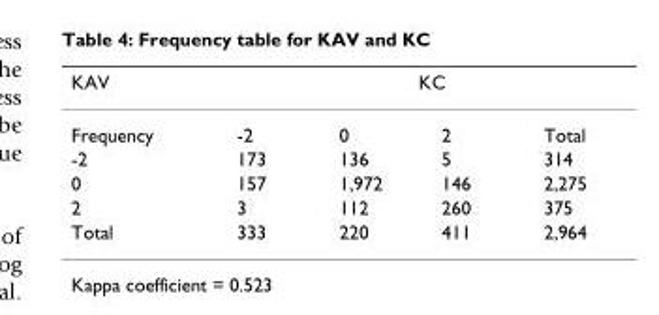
<table><thead><tr><td rowspan="2">KAV Frequency</td><td colspan="4">KC</td></tr><tr><td>-2</td><td>0</td><td>2</td><td>Total</td></tr></thead><tbody><tr><td>-2</td><td>173</td><td>136</td><td>5</td><td>314</td></tr><tr><td>0</td><td>157</td><td>1,972</td><td>146</td><td>2,275</td></tr><tr><td>2</td><td>3</td><td>112</td><td>260</td><td>375</td></tr><tr><td>Total</td><td>333</td><td>220</td><td>411</td><td>2,964</td></tr></tbody></table>